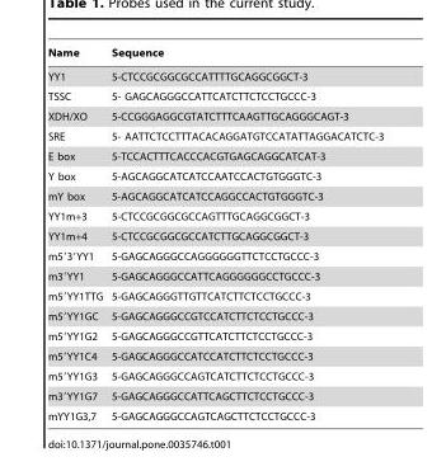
<table><thead><tr><td>Name</td><td>Sequence</td></tr></thead><tbody><tr><td>YY1</td><td>5-CTCCGCGGCGCCATTTTGCAGGCGGCT-3</td></tr><tr><td>TSSC</td><td>5- GAGCAGGGCCATTCATCTTCTCCTGCCC-3</td></tr><tr><td>XDH/XO</td><td>5-CCGGGAGGCGTATCTTTCAAGTTGCAGGGCAGT-3</td></tr><tr><td>SRE</td><td>5- AATTCTCCTTTACACAGGATGTCCATATTAGGACATCTC-3</td></tr><tr><td>E box</td><td>5-TCCACTTTCACCCACGTGAGCAGGCATCAT-3</td></tr><tr><td>Y box</td><td>5-AGCAGGCATCATCCAATCCACTGTGGGTC-3</td></tr><tr><td>mY box</td><td>5-AGCAGGCATCATCCAGGCCACTGTGGGTC-3</td></tr><tr><td>YY1m+3</td><td>5-CTCCGCGGCGCCAGTTTGCAGGCGGCT-3</td></tr><tr><td>YY1m+4</td><td>5-CTCCGCGGCGCCATCTTGCAGGCGGCT-3</td></tr><tr><td>m5′3′YY1</td><td>5-GAGCAGGGCCAGGGGGGTTCTCCTGCCC-3</td></tr><tr><td>m3′YY1</td><td>5-GAGCAGGGCCATTCAGGGGGGCCTGCCC-3</td></tr><tr><td>m5′YY1TTG</td><td>5-GAGCAGGGTTGTTCATCTTCTCCTGCCC-3</td></tr><tr><td>m5′YY1GC</td><td>5-GAGCAGGGCCGTCCATCTTCTCCTGCCC-3</td></tr><tr><td>m5′YY1G2</td><td>5-GAGCAGGGCCGTTCATCTTCTCCTGCCC-3</td></tr><tr><td>m5′YY1C4</td><td>5-GAGCAGGGCCATCCATCTTCTCCTGCCC-3</td></tr><tr><td>m5′YY1G3</td><td>5-GAGCAGGGCCAGTCATCTTCTCCTGCCC-3</td></tr><tr><td>m3′YY1G7</td><td>5-GAGCAGGGCCATTCAGCTTCTCCTGCCC-3</td></tr><tr><td>mYY1G3,7</td><td>5-GAGCAGGGCCAGTCAGCTTCTCCTGCCC-3</td></tr></tbody></table>